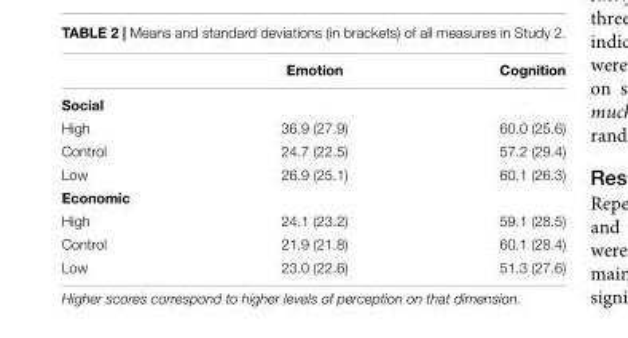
<table><thead><tr><td></td><td>Emotion</td><td>Cognition</td></tr></thead><tbody><tr><td colspan="3">Social</td></tr><tr><td>High</td><td>36.9 (27.9)</td><td>60.0 (25.6)</td></tr><tr><td>Control</td><td>24.7 (22.5)</td><td>57.2 (29.4)</td></tr><tr><td>Low</td><td>26.9 (25.1)</td><td>60.1 (26.3)</td></tr><tr><td colspan="3">Economic</td></tr><tr><td>High</td><td>24.1 (23.2)</td><td>59.1 (28.5)</td></tr><tr><td>Control</td><td>21.9 (21.8)</td><td>60.1 (28.4)</td></tr><tr><td>Low</td><td>23.0 (22.6)</td><td>51.3 (27.6)</td></tr></tbody></table>